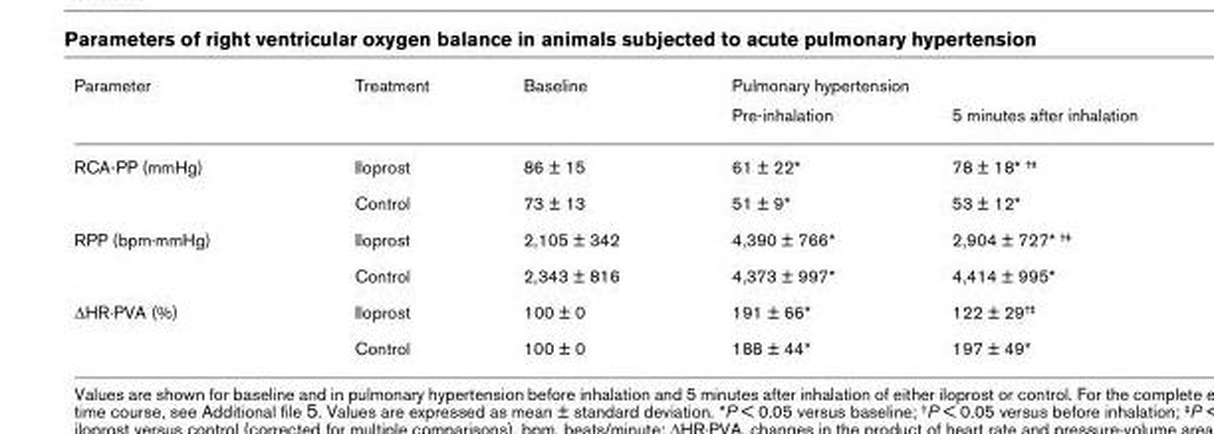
<table><thead><tr><td rowspan="2">Parameter</td><td rowspan="2">Treatment</td><td rowspan="2">Baseline</td><td colspan="2">Pulmonary hypertension</td></tr><tr><td>Pre-inhalation</td><td>5 minutes after inhalation</td></tr></thead><tbody><tr><td rowspan="2">RCA-PP (mmHg)</td><td>Iloprost</td><td>86 ± 15</td><td>61 ± 22*</td><td>78 ± 18* <sup>†‡</sup></td></tr><tr><td>Control</td><td>73 ± 13</td><td>51 ± 9*</td><td>53 ± 12*</td></tr><tr><td rowspan="2">RPP (bpm·mmHg)</td><td>Iloprost</td><td>2,105 ± 342</td><td>4,390 ± 766*</td><td>2,904 ± 727* <sup>†‡</sup></td></tr><tr><td>Control</td><td>2,343 ± 816</td><td>4,373 ± 997*</td><td>4,414 ± 995*</td></tr><tr><td rowspan="2">ΔHR·PVA (%)</td><td>Iloprost</td><td>100 ± 0</td><td>191 ± 66*</td><td>122 ± 29<sup>†‡</sup></td></tr><tr><td>Control</td><td>100 ± 0</td><td>188 ± 44*</td><td>197 ± 49*</td></tr></tbody></table>